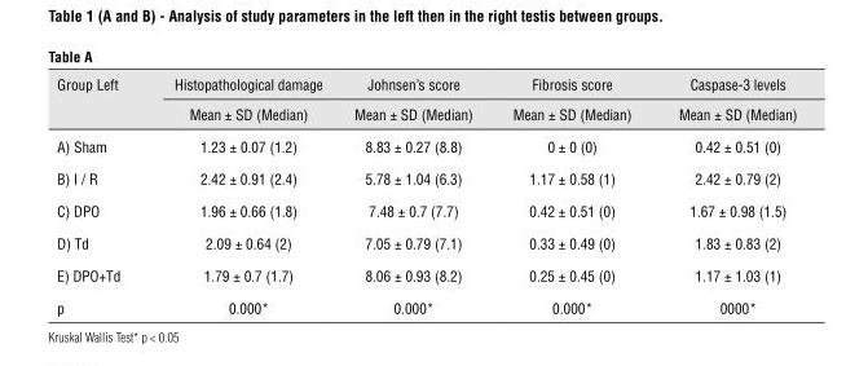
<table><thead><tr><td colspan="5">Table A</td></tr><tr><td rowspan="2">Group Left</td><td rowspan="2">Histopathological damage Mean ± SD (Median)</td><td rowspan="2">Johnsen’s score Mean ± SD (Median)</td><td rowspan="2">Fibrosis score Mean ± SD (Median)</td><td rowspan="2">Caspase-3 levels Mean ± SD (Median)</td></tr><tr></tr></thead><tbody><tr><td>A) Sham</td><td>1.23 ± 0.07 (1.2)</td><td>8.83 ± 0.27 (8.8)</td><td>0 ± 0 (0)</td><td>0.42 ± 0.51 (0)</td></tr><tr><td>B) I / R</td><td>2.42 ± 0.91 (2.4)</td><td>5.78 ± 1.04 (6.3)</td><td>1.17 ± 0.58 (1)</td><td>2.42 ± 0.79 (2)</td></tr><tr><td>C) DPO</td><td>1.96 ± 0.66 (1.8)</td><td>7.48 ± 0.7 (7.7)</td><td>0.42 ± 0.51 (0)</td><td>1.67 ± 0.98 (1.5)</td></tr><tr><td>D) Td</td><td>2.09 ± 0.64 (2)</td><td>7.05 ± 0.79 (7.1)</td><td>0.33 ± 0.49 (0)</td><td>1.83 ± 0.83 (2)</td></tr><tr><td>E) DPO+Td</td><td>1.79 ± 0.7 (1.7)</td><td>8.06 ± 0.93 (8.2)</td><td>0.25 ± 0.45 (0)</td><td>1.17 ± 1.03 (1)</td></tr><tr><td>p</td><td>0.000*</td><td>0.000*</td><td>0.000*</td><td>0000*</td></tr></tbody></table>